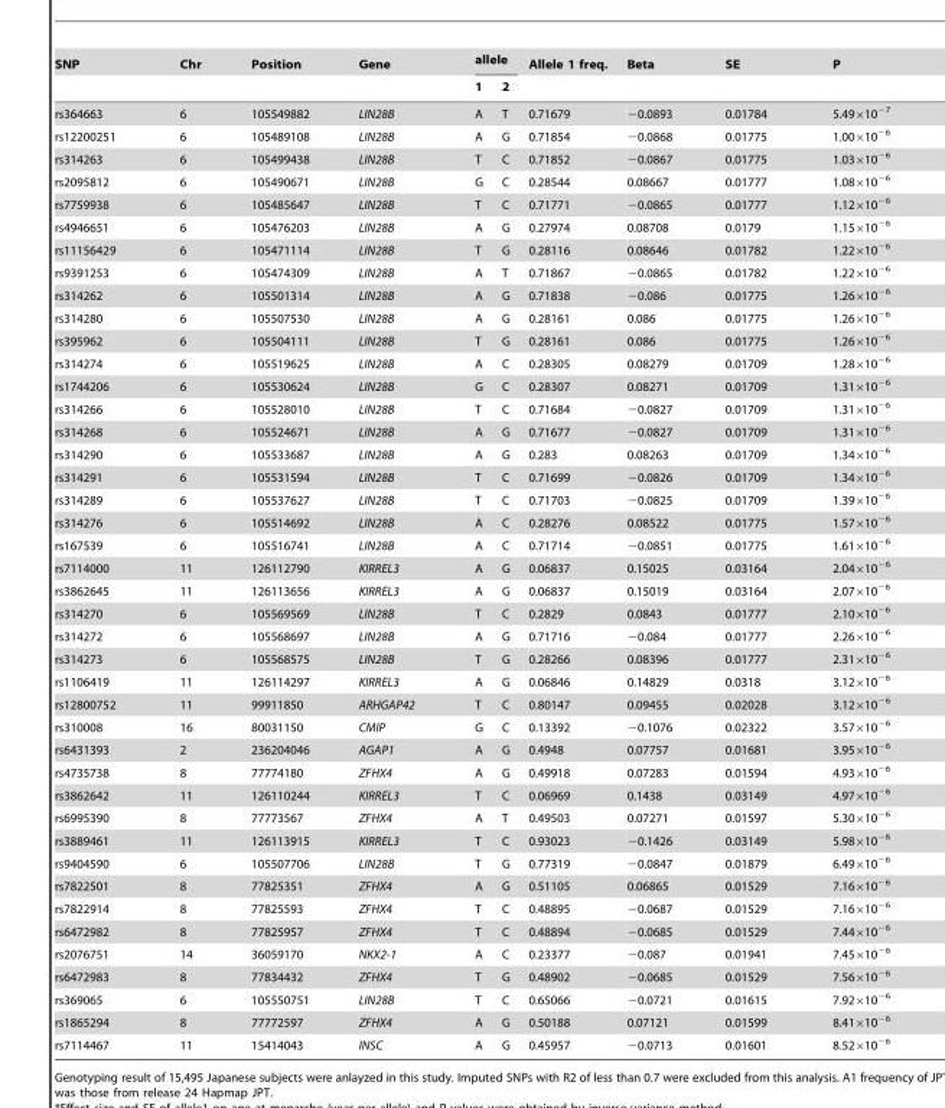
<table><thead><tr><td rowspan="2">SNP</td><td rowspan="2">Chr</td><td rowspan="2">Position</td><td rowspan="2">Gene</td><td colspan="2">allele</td><td rowspan="2">Allele 1 freq.</td><td rowspan="2">Beta</td><td rowspan="2">SE</td><td rowspan="2">P</td></tr><tr><td>1</td><td>2</td></tr></thead><tbody><tr><td>rs364663</td><td>6</td><td>105549882</td><td>LIN28B</td><td>A</td><td>T</td><td>0.71679</td><td>−0.0893</td><td>0.01784</td><td>5.49×10<sup>−7</sup></td></tr><tr><td>rs12200251</td><td>6</td><td>105489108</td><td>LIN28B</td><td>A</td><td>G</td><td>0.71854</td><td>−0.0868</td><td>0.01775</td><td>1.00×10<sup>−6</sup></td></tr><tr><td>rs314263</td><td>6</td><td>105499438</td><td>LIN28B</td><td>T</td><td>C</td><td>0.71852</td><td>−0.0867</td><td>0.01775</td><td>1.03×10<sup>−6</sup></td></tr><tr><td>rs2095812</td><td>6</td><td>105490671</td><td>LIN28B</td><td>G</td><td>C</td><td>0.28544</td><td>0.08667</td><td>0.01777</td><td>1.08×10<sup>−6</sup></td></tr><tr><td>rs7759938</td><td>6</td><td>105485647</td><td>LIN28B</td><td>T</td><td>C</td><td>0.71771</td><td>−0.0865</td><td>0.01777</td><td>1.12×10<sup>−6</sup></td></tr><tr><td>rs4946651</td><td>6</td><td>105476203</td><td>LIN28B</td><td>A</td><td>G</td><td>0.27974</td><td>0.08708</td><td>0.0179</td><td>1.15×10<sup>−6</sup></td></tr><tr><td>rs11156429</td><td>6</td><td>105471114</td><td>LIN28B</td><td>T</td><td>G</td><td>0.28116</td><td>0.08646</td><td>0.01782</td><td>1.22×10<sup>−6</sup></td></tr><tr><td>rs9391253</td><td>6</td><td>105474309</td><td>LIN28B</td><td>A</td><td>T</td><td>0.71867</td><td>−0.0865</td><td>0.01782</td><td>1.22×10<sup>−6</sup></td></tr><tr><td>rs314262</td><td>6</td><td>105501314</td><td>LIN28B</td><td>A</td><td>G</td><td>0.71838</td><td>−0.086</td><td>0.01775</td><td>1.26×10<sup>−6</sup></td></tr><tr><td>rs314280</td><td>6</td><td>105507530</td><td>LIN28B</td><td>A</td><td>G</td><td>0.28161</td><td>0.086</td><td>0.01775</td><td>1.26×10<sup>−6</sup></td></tr><tr><td>rs395962</td><td>6</td><td>105504111</td><td>LIN28B</td><td>T</td><td>G</td><td>0.28161</td><td>0.086</td><td>0.01775</td><td>1.26×10<sup>−6</sup></td></tr><tr><td>rs314274</td><td>6</td><td>105519625</td><td>LIN28B</td><td>A</td><td>C</td><td>0.28305</td><td>0.08279</td><td>0.01709</td><td>1.28×10<sup>−6</sup></td></tr><tr><td>rs1744206</td><td>6</td><td>105530624</td><td>LIN28B</td><td>G</td><td>C</td><td>0.28307</td><td>0.08271</td><td>0.01709</td><td>1.31×10<sup>−6</sup></td></tr><tr><td>rs314266</td><td>6</td><td>105528010</td><td>LIN28B</td><td>T</td><td>C</td><td>0.71684</td><td>−0.0827</td><td>0.01709</td><td>1.31×10<sup>−6</sup></td></tr><tr><td>rs314268</td><td>6</td><td>105524671</td><td>LIN28B</td><td>A</td><td>G</td><td>0.71677</td><td>−0.0827</td><td>0.01709</td><td>1.31×10<sup>−6</sup></td></tr><tr><td>rs314290</td><td>6</td><td>105533687</td><td>LIN28B</td><td>A</td><td>G</td><td>0.283</td><td>0.08263</td><td>0.01709</td><td>1.34×10<sup>−6</sup></td></tr><tr><td>rs314291</td><td>6</td><td>105531594</td><td>LIN28B</td><td>T</td><td>C</td><td>0.71699</td><td>−0.0826</td><td>0.01709</td><td>1.34×10<sup>−6</sup></td></tr><tr><td>rs314289</td><td>6</td><td>105537627</td><td>LIN28B</td><td>T</td><td>C</td><td>0.71703</td><td>−0.0825</td><td>0.01709</td><td>1.39×10<sup>−6</sup></td></tr><tr><td>rs314276</td><td>6</td><td>105514692</td><td>LIN28B</td><td>A</td><td>C</td><td>0.28276</td><td>0.08522</td><td>0.01775</td><td>1.57×10<sup>−6</sup></td></tr><tr><td>rs167539</td><td>6</td><td>105516741</td><td>LIN28B</td><td>A</td><td>C</td><td>0.71714</td><td>−0.0851</td><td>0.01775</td><td>1.61×10<sup>−6</sup></td></tr><tr><td>rs7114000</td><td>11</td><td>126112790</td><td>KIRREL3</td><td>A</td><td>G</td><td>0.06837</td><td>0.15025</td><td>0.03164</td><td>2.04×10<sup>−6</sup></td></tr><tr><td>rs3862645</td><td>11</td><td>126113656</td><td>KIRREL3</td><td>A</td><td>G</td><td>0.06837</td><td>0.15019</td><td>0.03164</td><td>2.07×10<sup>−6</sup></td></tr><tr><td>rs314270</td><td>6</td><td>105569569</td><td>LIN28B</td><td>T</td><td>C</td><td>0.2829</td><td>0.0843</td><td>0.01777</td><td>2.10×10<sup>−6</sup></td></tr><tr><td>rs314272</td><td>6</td><td>105568697</td><td>LIN28B</td><td>A</td><td>G</td><td>0.71716</td><td>−0.084</td><td>0.01777</td><td>2.26×10<sup>−6</sup></td></tr><tr><td>rs314273</td><td>6</td><td>105568575</td><td>LIN28B</td><td>T</td><td>G</td><td>0.28266</td><td>0.08396</td><td>0.01777</td><td>2.31×10<sup>−6</sup></td></tr><tr><td>rs1106419</td><td>11</td><td>126114297</td><td>KIRREL3</td><td>A</td><td>G</td><td>0.06846</td><td>0.14829</td><td>0.0318</td><td>3.12×10<sup>−6</sup></td></tr><tr><td>rs12800752</td><td>11</td><td>99911850</td><td>ARHGAP42</td><td>T</td><td>C</td><td>0.80147</td><td>0.09455</td><td>0.02028</td><td>3.12×10<sup>−6</sup></td></tr><tr><td>rs310008</td><td>16</td><td>80031150</td><td>CMIP</td><td>G</td><td>C</td><td>0.13392</td><td>−0.1076</td><td>0.02322</td><td>3.57×10<sup>−6</sup></td></tr><tr><td>rs6431393</td><td>2</td><td>236204046</td><td>AGAP1</td><td>A</td><td>G</td><td>0.4948</td><td>0.07757</td><td>0.01681</td><td>3.95×10<sup>−6</sup></td></tr><tr><td>rs4735738</td><td>8</td><td>77774180</td><td>ZFHX4</td><td>A</td><td>G</td><td>0.49918</td><td>0.07283</td><td>0.01594</td><td>4.93×10<sup>−6</sup></td></tr><tr><td>rs3862642</td><td>11</td><td>126110244</td><td>KIRREL3</td><td>T</td><td>C</td><td>0.06969</td><td>0.1438</td><td>0.03149</td><td>4.97×10<sup>−6</sup></td></tr><tr><td>rs6995390</td><td>8</td><td>77773567</td><td>ZFHX4</td><td>A</td><td>T</td><td>0.49503</td><td>0.07271</td><td>0.01597</td><td>5.30×10<sup>−6</sup></td></tr><tr><td>rs3889461</td><td>11</td><td>126113915</td><td>KIRREL3</td><td>T</td><td>C</td><td>0.93023</td><td>−0.1426</td><td>0.03149</td><td>5.98×10<sup>−6</sup></td></tr><tr><td>rs9404590</td><td>6</td><td>105507706</td><td>LIN28B</td><td>T</td><td>G</td><td>0.77319</td><td>−0.0847</td><td>0.01879</td><td>6.49×10<sup>−6</sup></td></tr><tr><td>rs7822501</td><td>8</td><td>77825351</td><td>ZFHX4</td><td>A</td><td>G</td><td>0.51105</td><td>0.06865</td><td>0.01529</td><td>7.16×10<sup>−6</sup></td></tr><tr><td>rs7822914</td><td>8</td><td>77825593</td><td>ZFHX4</td><td>T</td><td>C</td><td>0.48895</td><td>−0.0687</td><td>0.01529</td><td>7.16×10<sup>−6</sup></td></tr><tr><td>rs6472982</td><td>8</td><td>77825957</td><td>ZFHX4</td><td>T</td><td>C</td><td>0.48894</td><td>−0.0685</td><td>0.01529</td><td>7.44×10<sup>−6</sup></td></tr><tr><td>rs2076751</td><td>14</td><td>36059170</td><td>NKX2-1</td><td>A</td><td>C</td><td>0.23377</td><td>−0.087</td><td>0.01941</td><td>7.45×10<sup>−6</sup></td></tr><tr><td>rs6472983</td><td>8</td><td>77834432</td><td>ZFHX4</td><td>T</td><td>G</td><td>0.48902</td><td>−0.0685</td><td>0.01529</td><td>7.56×10<sup>−6</sup></td></tr><tr><td>rs369065</td><td>6</td><td>105550751</td><td>LIN28B</td><td>T</td><td>C</td><td>0.65066</td><td>−0.0721</td><td>0.01615</td><td>7.92×10<sup>−6</sup></td></tr><tr><td>rs1865294</td><td>8</td><td>77772597</td><td>ZFHX4</td><td>A</td><td>G</td><td>0.50188</td><td>0.07121</td><td>0.01599</td><td>8.41×10<sup>−6</sup></td></tr><tr><td>rs7114467</td><td>11</td><td>15414043</td><td>INSC</td><td>A</td><td>G</td><td>0.45957</td><td>−0.0713</td><td>0.01601</td><td>8.52×10<sup>−6</sup></td></tr></tbody></table>